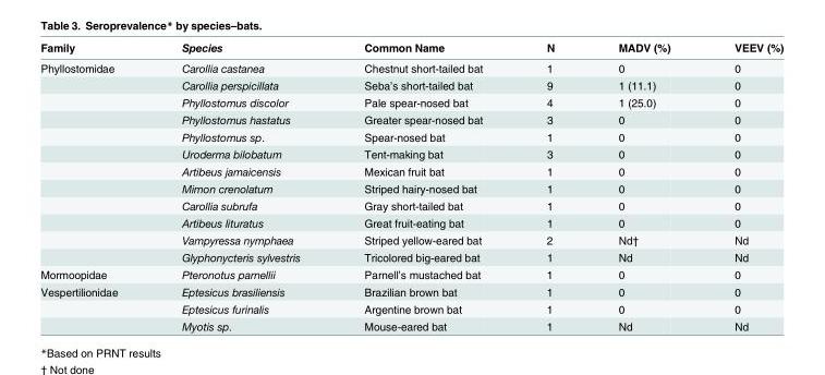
<table><thead><tr><td>Family</td><td>Species</td><td>Common Name</td><td>N</td><td>MADV (%)</td><td>VEEV (%)</td></tr></thead><tbody><tr><td rowspan="12">Phyllostomidae</td><td>Carollia castanea</td><td>Chestnut short-tailed bat</td><td>1</td><td>0</td><td>0</td></tr><tr><td>Carollia perspicillata</td><td>Seba’s short-tailed bat</td><td>9</td><td>1 (11.1)</td><td>0</td></tr><tr><td>Phyllostomus discolor</td><td>Pale spear-nosed bat</td><td>4</td><td>1 (25.0)</td><td>0</td></tr><tr><td>Phyllostomus hastatus</td><td>Greater spear-nosed bat</td><td>3</td><td>0</td><td>0</td></tr><tr><td>Phyllostomus sp.</td><td>Spear-nosed bat</td><td>1</td><td>0</td><td>0</td></tr><tr><td>Uroderma bilobatum</td><td>Tent-making bat</td><td>3</td><td>0</td><td>0</td></tr><tr><td>Artibeus jamaicensis</td><td>Mexican fruit bat</td><td>1</td><td>0</td><td>0</td></tr><tr><td>Mimon crenolatum</td><td>Striped hairy-nosed bat</td><td>1</td><td>0</td><td>0</td></tr><tr><td>Carollia subrufa</td><td>Gray short-tailed bat</td><td>1</td><td>0</td><td>0</td></tr><tr><td>Artibeus lituratus</td><td>Great fruit-eating bat</td><td>1</td><td>0</td><td>0</td></tr><tr><td>Vampyressa nymphaea</td><td>Striped yellow-eared bat</td><td>2</td><td>Nd†</td><td>Nd</td></tr><tr><td>Glyphonycteris sylvestris</td><td>Tricolored big-eared bat</td><td>1</td><td>Nd</td><td>Nd</td></tr><tr><td>Mormoopidae</td><td>Pteronotus parnellii</td><td>Parnell’s mustached bat</td><td>1</td><td>0</td><td>0</td></tr><tr><td rowspan="3">Vespertilionidae</td><td>Eptesicus brasiliensis</td><td>Brazilian brown bat</td><td>1</td><td>0</td><td>0</td></tr><tr><td>Eptesicus furinalis</td><td>Argentine brown bat</td><td>1</td><td>0</td><td>0</td></tr><tr><td>Myotis sp.</td><td>Mouse-eared bat</td><td>1</td><td>Nd</td><td>Nd</td></tr></tbody></table>